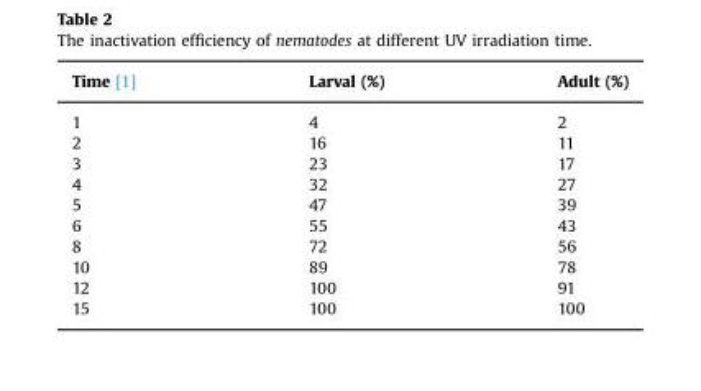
<table><thead><tr><td>Time [1]</td><td>Larval (%)</td><td>Adult (%)</td></tr></thead><tbody><tr><td>1</td><td>4</td><td>2</td></tr><tr><td>2</td><td>16</td><td>11</td></tr><tr><td>3</td><td>23</td><td>17</td></tr><tr><td>4</td><td>32</td><td>27</td></tr><tr><td>5</td><td>47</td><td>39</td></tr><tr><td>6</td><td>55</td><td>43</td></tr><tr><td>8</td><td>72</td><td>56</td></tr><tr><td>10</td><td>89</td><td>78</td></tr><tr><td>12</td><td>100</td><td>91</td></tr><tr><td>15</td><td>100</td><td>100</td></tr></tbody></table>